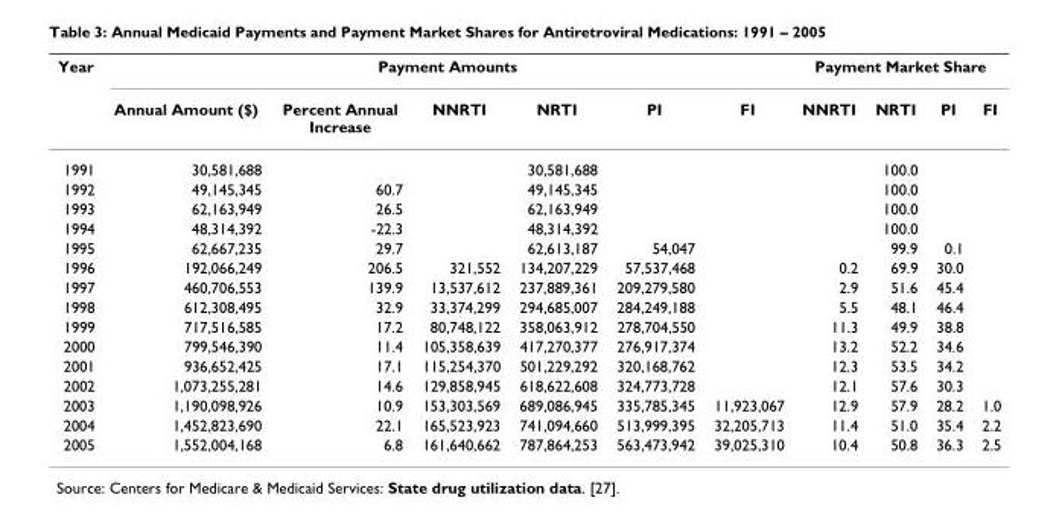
<table><thead><tr><td rowspan="2">Year</td><td colspan="6">Payment Amounts</td><td colspan="4">Payment Market Share</td></tr><tr><td>Annual Amount ($)</td><td>Percent Annual Increase</td><td>NNRTI</td><td>NRTI</td><td>PI</td><td>FI</td><td>NNRTI</td><td>NRTI</td><td>PI</td><td>FI</td></tr></thead><tbody><tr><td>1991</td><td>30,581,688</td><td></td><td></td><td>30,581,688</td><td></td><td></td><td></td><td>100.0</td><td></td><td></td></tr><tr><td>1992</td><td>49,145,345</td><td>60.7</td><td></td><td>49,145,345</td><td></td><td></td><td></td><td>100.0</td><td></td><td></td></tr><tr><td>1993</td><td>62,163,949</td><td>26.5</td><td></td><td>62,163,949</td><td></td><td></td><td></td><td>100.0</td><td></td><td></td></tr><tr><td>1994</td><td>48,314,392</td><td>-22.3</td><td></td><td>48,314,392</td><td></td><td></td><td></td><td>100.0</td><td></td><td></td></tr><tr><td>1995</td><td>62,667,235</td><td>29.7</td><td></td><td>62,613,187</td><td>54,047</td><td></td><td></td><td>99.9</td><td>0.1</td><td></td></tr><tr><td>1996</td><td>192,066,249</td><td>206.5</td><td>321,552</td><td>134,207,229</td><td>57,537,468</td><td></td><td>0.2</td><td>69.9</td><td>30.0</td><td></td></tr><tr><td>1997</td><td>460,706,553</td><td>139.9</td><td>13,537,612</td><td>237,889,361</td><td>209,279,580</td><td></td><td>2.9</td><td>51.6</td><td>45.4</td><td></td></tr><tr><td>1998</td><td>612,308,495</td><td>32.9</td><td>33,374,299</td><td>294,685,007</td><td>284,249,188</td><td></td><td>5.5</td><td>48.1</td><td>46.4</td><td></td></tr><tr><td>1999</td><td>717,516,585</td><td>17.2</td><td>80,748,122</td><td>358,063,912</td><td>278,704,550</td><td></td><td>11.3</td><td>49.9</td><td>38.8</td><td></td></tr><tr><td>2000</td><td>799,546,390</td><td>11.4</td><td>105,358,639</td><td>417,270,377</td><td>276,917,374</td><td></td><td>13.2</td><td>52.2</td><td>34.6</td><td></td></tr><tr><td>2001</td><td>936,652,425</td><td>17.1</td><td>115,254,370</td><td>501,229,292</td><td>320,168,762</td><td></td><td>12.3</td><td>53.5</td><td>34.2</td><td></td></tr><tr><td>2002</td><td>1,073,255,281</td><td>14.6</td><td>129,858,945</td><td>618,622,608</td><td>324,773,728</td><td></td><td>12.1</td><td>57.6</td><td>30.3</td><td></td></tr><tr><td>2003</td><td>1,190,098,926</td><td>10.9</td><td>153,303,569</td><td>689,086,945</td><td>335,785,345</td><td>11,923,067</td><td>12.9</td><td>57.9</td><td>28.2</td><td>1.0</td></tr><tr><td>2004</td><td>1,452,823,690</td><td>22.1</td><td>165,523,923</td><td>741,094,660</td><td>513,999,395</td><td>32,205,713</td><td>11.4</td><td>51.0</td><td>35.4</td><td>2.2</td></tr><tr><td>2005</td><td>1,552,004,168</td><td>6.8</td><td>161,640,662</td><td>787,864,253</td><td>563,473,942</td><td>39,025,310</td><td>10.4</td><td>50.8</td><td>36.3</td><td>2.5</td></tr></tbody></table>